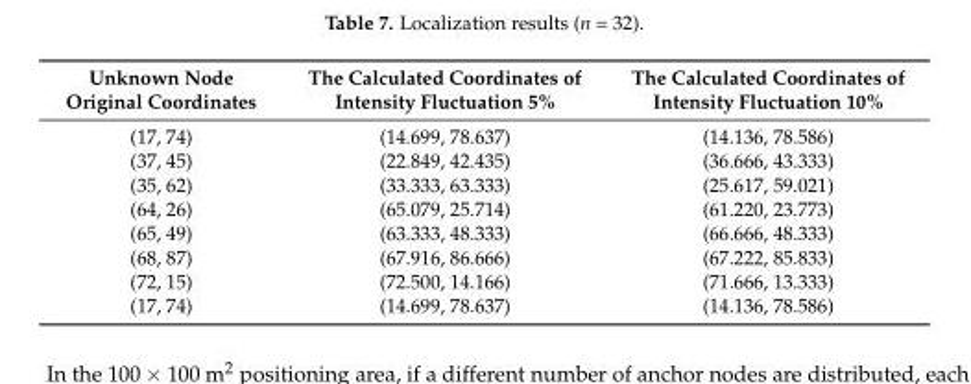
<table><thead><tr><td>Unknown Node Original Coordinates</td><td>The Calculated Coordinates of Intensity Fluctuation 5%</td><td>The Calculated Coordinates of Intensity Fluctuation 10%</td></tr></thead><tbody><tr><td>(17, 74)</td><td>(14.699, 78.637)</td><td>(14.136, 78.586)</td></tr><tr><td>(37, 45)</td><td>(22.849, 42.435)</td><td>(36.666, 43.333)</td></tr><tr><td>(35, 62)</td><td>(33.333, 63.333)</td><td>(25.617, 59.021)</td></tr><tr><td>(64, 26)</td><td>(65.079, 25.714)</td><td>(61.220, 23.773)</td></tr><tr><td>(65, 49)</td><td>(63.333, 48.333)</td><td>(66.666, 48.333)</td></tr><tr><td>(68, 87)</td><td>(67.916, 86.666)</td><td>(67.222, 85.833)</td></tr><tr><td>(72, 15)</td><td>(72.500, 14.166)</td><td>(71.666, 13.333)</td></tr><tr><td>(17, 74)</td><td>(14.699, 78.637)</td><td>(14.136, 78.586)</td></tr></tbody></table>